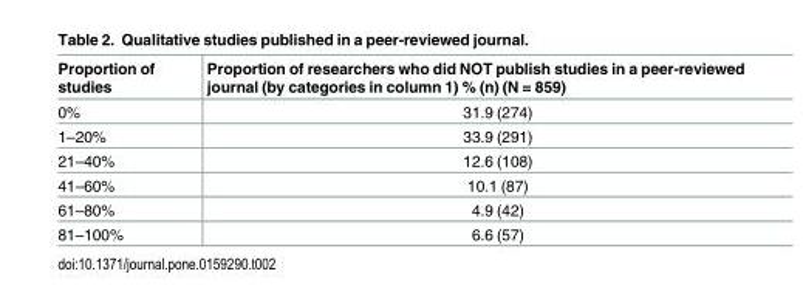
<table><thead><tr><td>Proportion of studies</td><td>Proportion of researchers who did NOT publish studies in a peer-reviewed journal (by categories in column 1) % (n) (N = 859)</td></tr></thead><tbody><tr><td>0%</td><td>31.9 (274)</td></tr><tr><td>1–20%</td><td>33.9 (291)</td></tr><tr><td>21–40%</td><td>12.6 (108)</td></tr><tr><td>41–60%</td><td>10.1 (87)</td></tr><tr><td>61–80%</td><td>4.9 (42)</td></tr><tr><td>81–100%</td><td>6.6 (57)</td></tr></tbody></table>